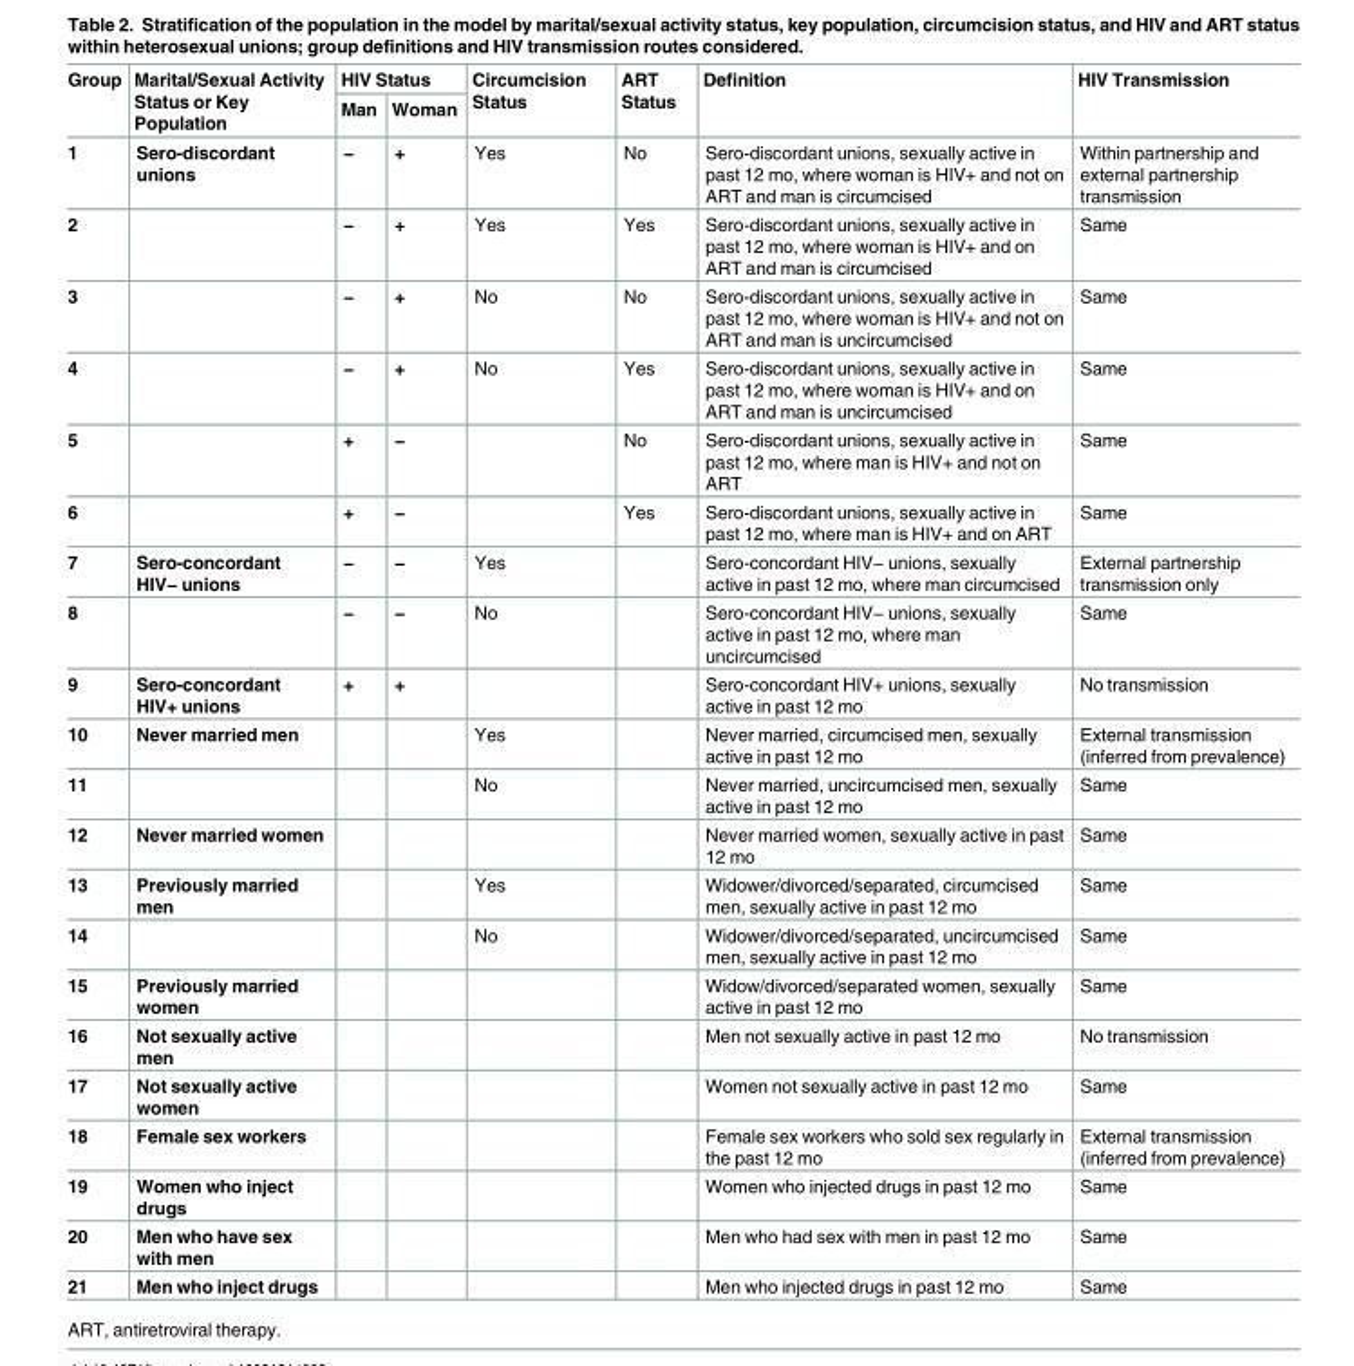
<table><thead><tr><td rowspan="2">Group</td><td rowspan="2">Marital/Sexual Activity Status or Key Population</td><td colspan="2">HIV Status</td><td rowspan="2">Circumcision Status</td><td rowspan="2">ART Status</td><td rowspan="2">Definition</td><td rowspan="2">HIV Transmission</td></tr><tr><td>Man</td><td>Woman</td></tr></thead><tbody><tr><td>1</td><td>Sero-discordant unions</td><td>−</td><td>+</td><td>Yes</td><td>No</td><td>Sero-discordant unions, sexually active in past 12 mo, where woman is HIV+ and not on ART and man is circumcised</td><td>Within partnership and external partnership transmission</td></tr><tr><td>2</td><td></td><td>−</td><td>+</td><td>Yes</td><td>Yes</td><td>Sero-discordant unions, sexually active in past 12 mo, where woman is HIV+ and on ART and man is circumcised</td><td>Same</td></tr><tr><td>3</td><td></td><td>−</td><td>+</td><td>No</td><td>No</td><td>Sero-discordant unions, sexually active in past 12 mo, where woman is HIV+ and not on ART and man is uncircumcised</td><td>Same</td></tr><tr><td>4</td><td></td><td>−</td><td>+</td><td>No</td><td>Yes</td><td>Sero-discordant unions, sexually active in past 12 mo, where woman is HIV+ and on ART and man is uncircumcised</td><td>Same</td></tr><tr><td>5</td><td></td><td>+</td><td>−</td><td></td><td>No</td><td>Sero-discordant unions, sexually active in past 12 mo, where man is HIV+ and not on ART</td><td>Same</td></tr><tr><td>6</td><td></td><td>+</td><td>−</td><td></td><td>Yes</td><td>Sero-discordant unions, sexually active in past 12 mo, where man is HIV+ and on ART</td><td>Same</td></tr><tr><td>7</td><td>Sero-concordant HIV− unions</td><td>−</td><td>−</td><td>Yes</td><td></td><td>Sero-concordant HIV− unions, sexually active in past 12 mo, where man circumcised</td><td>External partnership transmission only</td></tr><tr><td>8</td><td></td><td>−</td><td>−</td><td>No</td><td></td><td>Sero-concordant HIV− unions, sexually active in past 12 mo, where man uncircumcised</td><td>Same</td></tr><tr><td>9</td><td>Sero-concordant HIV+ unions</td><td>+</td><td>+</td><td></td><td></td><td>Sero-concordant HIV+ unions, sexually active in past 12 mo</td><td>No transmission</td></tr><tr><td>10</td><td>Never married men</td><td></td><td></td><td>Yes</td><td></td><td>Never married, circumcised men, sexually active in past 12 mo</td><td>External transmission (inferred from prevalence)</td></tr><tr><td>11</td><td></td><td></td><td></td><td>No</td><td></td><td>Never married, uncircumcised men, sexually active in past 12 mo</td><td>Same</td></tr><tr><td>12</td><td>Never married women</td><td></td><td></td><td></td><td></td><td>Never married women, sexually active in past 12 mo</td><td>Same</td></tr><tr><td>13</td><td>Previously married men</td><td></td><td></td><td>Yes</td><td></td><td>Widower/divorced/separated, circumcised men, sexually active in past 12 mo</td><td>Same</td></tr><tr><td>14</td><td></td><td></td><td></td><td>No</td><td></td><td>Widower/divorced/separated, uncircumcised men, sexually active in past 12 mo</td><td>Same</td></tr><tr><td>15</td><td>Previously married women</td><td></td><td></td><td></td><td></td><td>Widow/divorced/separated women, sexually active in past 12 mo</td><td>Same</td></tr><tr><td>16</td><td>Not sexually active men</td><td></td><td></td><td></td><td></td><td>Men not sexually active in past 12 mo</td><td>No transmission</td></tr><tr><td>17</td><td>Not sexually active women</td><td></td><td></td><td></td><td></td><td>Women not sexually active in past 12 mo</td><td>Same</td></tr><tr><td>18</td><td>Female sex workers</td><td></td><td></td><td></td><td></td><td>Female sex workers who sold sex regularly in the past 12 mo</td><td>External transmission (inferred from prevalence)</td></tr><tr><td>19</td><td>Women who inject drugs</td><td></td><td></td><td></td><td></td><td>Women who injected drugs in past 12 mo</td><td>Same</td></tr><tr><td>20</td><td>Men who have sex with men</td><td></td><td></td><td></td><td></td><td>Men who had sex with men in past 12 mo</td><td>Same</td></tr><tr><td>21</td><td>Men who inject drugs</td><td></td><td></td><td></td><td></td><td>Men who injected drugs in past 12 mo</td><td>Same</td></tr></tbody></table>